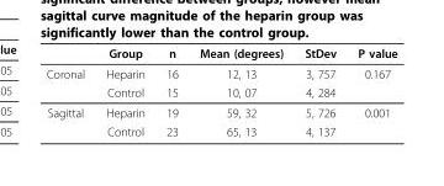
<table><thead><tr><td></td><td>Group</td><td>n</td><td>Mean (degrees)</td><td>StDev</td><td>P value</td></tr></thead><tbody><tr><td rowspan="2">Coronal</td><td>Heparin</td><td>16</td><td>12, 13</td><td>3, 757</td><td>0.167</td></tr><tr><td>Control</td><td>15</td><td>10, 07</td><td>4, 284</td><td></td></tr><tr><td rowspan="2">Sagittal</td><td>Heparin</td><td>19</td><td>59, 32</td><td>5, 726</td><td>0.001</td></tr><tr><td>Control</td><td>23</td><td>65, 13</td><td>4, 137</td><td></td></tr></tbody></table>